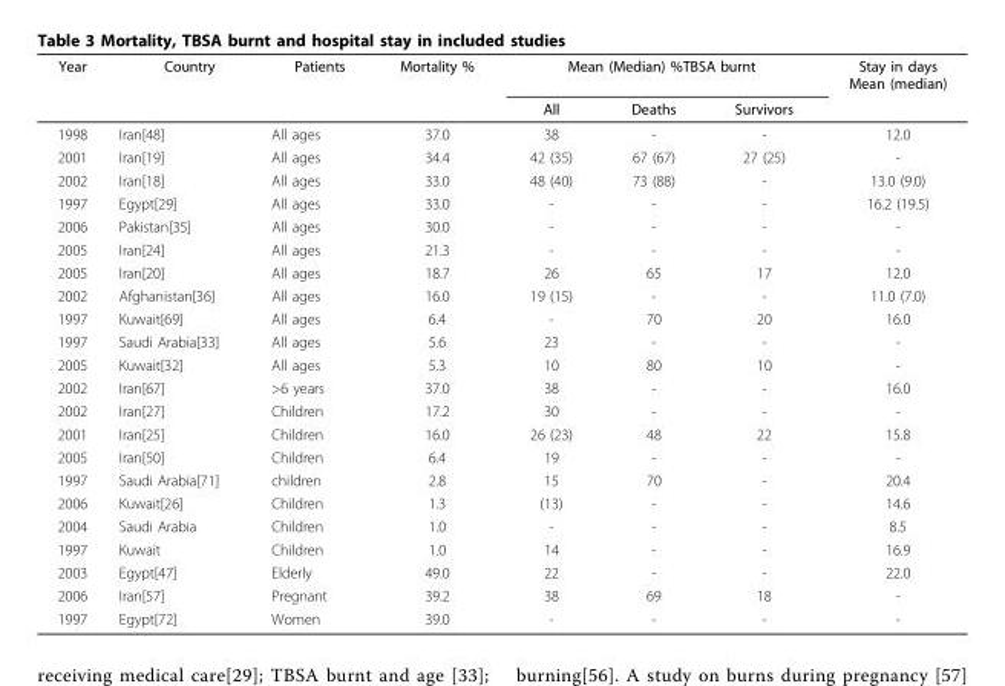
<table><thead><tr><td rowspan="2">Year</td><td rowspan="2">Country</td><td rowspan="2">Patients</td><td rowspan="2">Mortality %</td><td colspan="3">Mean (Median) %TBSA burnt</td><td rowspan="2">Stay in days Mean (median)</td></tr><tr><td>All</td><td>Deaths</td><td>Survivors</td></tr></thead><tbody><tr><td>1998</td><td>Iran[48]</td><td>All ages</td><td>37.0</td><td>38</td><td>-</td><td>-</td><td>12.0</td></tr><tr><td>2001</td><td>Iran[19]</td><td>All ages</td><td>34.4</td><td>42 (35)</td><td>67 (67)</td><td>27 (25)</td><td>-</td></tr><tr><td>2002</td><td>Iran[18]</td><td>All ages</td><td>33.0</td><td>48 (40)</td><td>73 (88)</td><td>-</td><td>13.0 (9.0)</td></tr><tr><td>1997</td><td>Egypt[29]</td><td>All ages</td><td>33.0</td><td>-</td><td>-</td><td>-</td><td>16.2 (19.5)</td></tr><tr><td>2006</td><td>Pakistan[35]</td><td>All ages</td><td>30.0</td><td>-</td><td>-</td><td>-</td><td>-</td></tr><tr><td>2005</td><td>Iran[24]</td><td>All ages</td><td>21.3</td><td>-</td><td>-</td><td>-</td><td>-</td></tr><tr><td>2005</td><td>Iran[20]</td><td>All ages</td><td>18.7</td><td>26</td><td>65</td><td>17</td><td>12.0</td></tr><tr><td>2002</td><td>Afghanistan[36]</td><td>All ages</td><td>16.0</td><td>19 (15)</td><td>-</td><td>-</td><td>11.0 (7.0)</td></tr><tr><td>1997</td><td>Kuwait[69]</td><td>All ages</td><td>6.4</td><td>-</td><td>70</td><td>20</td><td>16.0</td></tr><tr><td>1997</td><td>Saudi Arabia[33]</td><td>All ages</td><td>5.6</td><td>23</td><td>-</td><td>-</td><td>-</td></tr><tr><td>2005</td><td>Kuwait[32]</td><td>All ages</td><td>5.3</td><td>10</td><td>80</td><td>10</td><td>-</td></tr><tr><td>2002</td><td>Iran[67]</td><td>&gt;6 years</td><td>37.0</td><td>38</td><td>-</td><td>-</td><td>16.0</td></tr><tr><td>2002</td><td>Iran[27]</td><td>Children</td><td>17.2</td><td>30</td><td>-</td><td>-</td><td>-</td></tr><tr><td>2001</td><td>Iran[25]</td><td>Children</td><td>16.0</td><td>26 (23)</td><td>48</td><td>22</td><td>15.8</td></tr><tr><td>2005</td><td>Iran[50]</td><td>Children</td><td>6.4</td><td>19</td><td>-</td><td>-</td><td>-</td></tr><tr><td>1997</td><td>Saudi Arabia[71]</td><td>children</td><td>2.8</td><td>15</td><td>70</td><td>-</td><td>20.4</td></tr><tr><td>2006</td><td>Kuwait[26]</td><td>Children</td><td>1.3</td><td>(13)</td><td>-</td><td>-</td><td>14.6</td></tr><tr><td>2004</td><td>Saudi Arabia</td><td>Children</td><td>1.0</td><td>-</td><td>-</td><td>-</td><td>8.5</td></tr><tr><td>1997</td><td>Kuwait</td><td>Children</td><td>1.0</td><td>14</td><td>-</td><td>-</td><td>16.9</td></tr><tr><td>2003</td><td>Egypt[47]</td><td>Elderly</td><td>49.0</td><td>22</td><td>-</td><td>-</td><td>22.0</td></tr><tr><td>2006</td><td>Iran[57]</td><td>Pregnant</td><td>39.2</td><td>38</td><td>69</td><td>18</td><td>-</td></tr><tr><td>1997</td><td>Egypt[72]</td><td>Women</td><td>39.0</td><td>-</td><td>-</td><td>-</td><td>-</td></tr></tbody></table>